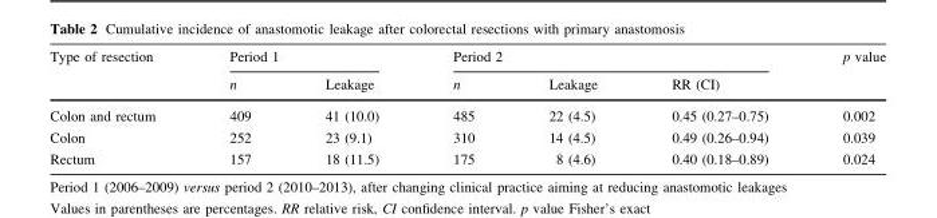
<table><thead><tr><td rowspan="2">Type of resection</td><td colspan="2">Period 1</td><td colspan="3">Period 2</td><td rowspan="2">p value</td></tr><tr><td>n</td><td>Leakage</td><td>n</td><td>Leakage</td><td>RR (CI)</td></tr></thead><tbody><tr><td>Colon and rectum</td><td>409</td><td>41 (10.0)</td><td>485</td><td>22 (4.5)</td><td>0.45 (0.27–0.75)</td><td>0.002</td></tr><tr><td>Colon</td><td>252</td><td>23 (9.1)</td><td>310</td><td>14 (4.5)</td><td>0.49 (0.26–0.94)</td><td>0.039</td></tr><tr><td>Rectum</td><td>157</td><td>18 (11.5)</td><td>175</td><td>8 (4.6)</td><td>0.40 (0.18–0.89)</td><td>0.024</td></tr></tbody></table>